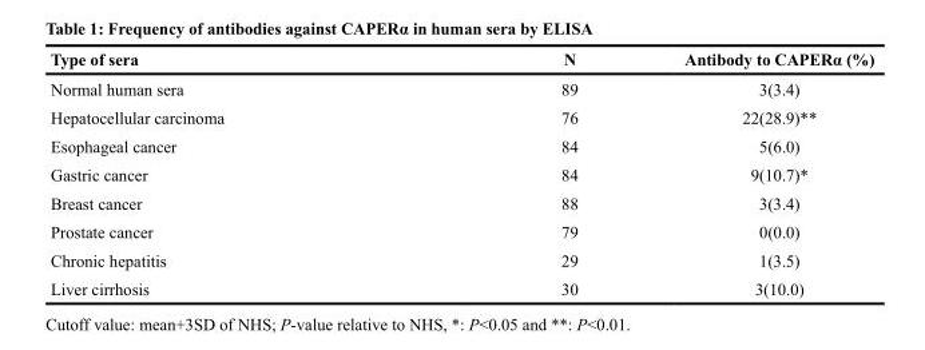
<table><thead><tr><td>Type of sera</td><td>N</td><td>Antibody to CAPERα (%)</td></tr></thead><tbody><tr><td>Normal human sera</td><td>89</td><td>3(3.4)</td></tr><tr><td>Hepatocellular carcinoma</td><td>76</td><td>22(28.9)**</td></tr><tr><td>Esophageal cancer</td><td>84</td><td>5(6.0)</td></tr><tr><td>Gastric cancer</td><td>84</td><td>9(10.7)*</td></tr><tr><td>Breast cancer</td><td>88</td><td>3(3.4)</td></tr><tr><td>Prostate cancer</td><td>79</td><td>0(0.0)</td></tr><tr><td>Chronic hepatitis</td><td>29</td><td>1(3.5)</td></tr><tr><td>Liver cirrhosis</td><td>30</td><td>3(10.0)</td></tr></tbody></table>